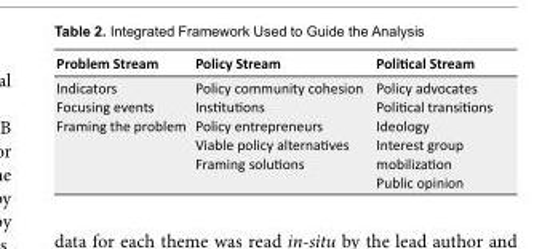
<table><tbody><tr><td>Problem Stream</td><td>Policy Stream</td><td>Political Stream</td></tr><tr><td>Indicators Focusing events Framing the problem</td><td>Policy community cohesion Institutions Policy entrepreneurs Viable policy alternatives Framing solutions</td><td>Policy advocates Political transitions Ideology Interest group mobilization Public opinion</td></tr></tbody></table>